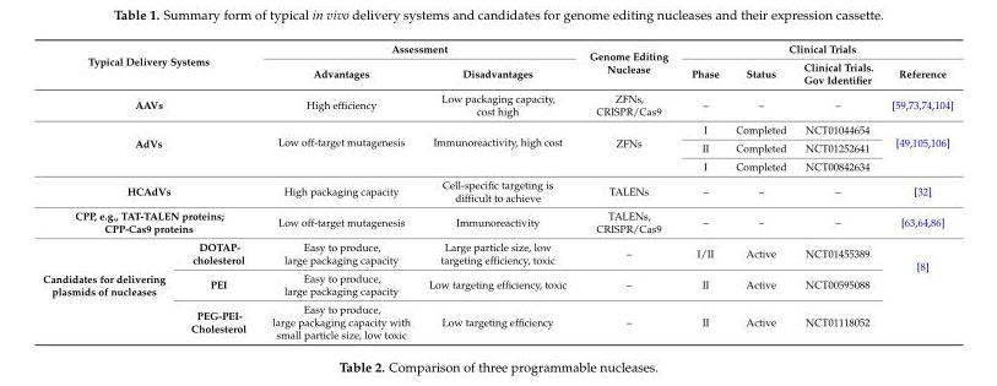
<table><thead><tr><td rowspan="2" colspan="2">Typical Delivery Systems</td><td colspan="2">Assessment</td><td rowspan="2">Genome Editing Nuclease</td><td colspan="4">Clinical Trials</td></tr><tr><td>Advantages</td><td>Disadvantages</td><td>Phase</td><td>Status</td><td>Clinical Trials. Gov Identifier</td><td>Reference</td></tr></thead><tbody><tr><td colspan="2">AAVs</td><td>High efficiency</td><td>Low packaging capacity, cost high</td><td>ZFNs, CRISPR/Cas9</td><td>–</td><td>–</td><td>–</td><td>[59,73,74,104]</td></tr><tr><td rowspan="3" colspan="2">AdVs</td><td rowspan="3">Low off-target mutagenesis</td><td rowspan="3">Immunoreactivity, high cost</td><td rowspan="3">ZFNs</td><td>I</td><td>Completed</td><td>NCT01044654</td><td rowspan="3">[49,105,106]</td></tr><tr><td>II</td><td>Completed</td><td>NCT01252641</td></tr><tr><td>I</td><td>Completed</td><td>NCT00842634</td></tr><tr><td colspan="2">HCAdVs</td><td>High packaging capacity</td><td>Cell-specific targeting is difficult to achieve</td><td>TALENs</td><td>–</td><td>–</td><td>–</td><td>[32]</td></tr><tr><td colspan="2">CPP, e.g., TAT-TALEN proteins; CPP-Cas9 proteins</td><td>Low off-target mutagenesis</td><td>Immunoreactivity</td><td>TALENs, CRISPR/Cas9</td><td>–</td><td>–</td><td>–</td><td>[63,64,86]</td></tr><tr><td rowspan="3">Candidates for delivering plasmids of nucleases</td><td>DOTAP- cholesterol</td><td>Easy to produce, large packaging capacity</td><td>Large particle size, low targeting efficiency, toxic</td><td>–</td><td>I/II</td><td>Active</td><td>NCT01455389</td><td rowspan="3">[8]</td></tr><tr><td>PEI</td><td>Easy to produce, large packaging capacity</td><td>Low targeting efficiency, toxic</td><td>–</td><td>II</td><td>Active</td><td>NCT00595088</td></tr><tr><td>PEG-PEI- Cholesterol</td><td>Easy to produce, large packaging capacity with small particle size, low toxic</td><td>Low targeting efficiency</td><td>–</td><td>II</td><td>Active</td><td>NCT01118052</td></tr></tbody></table>